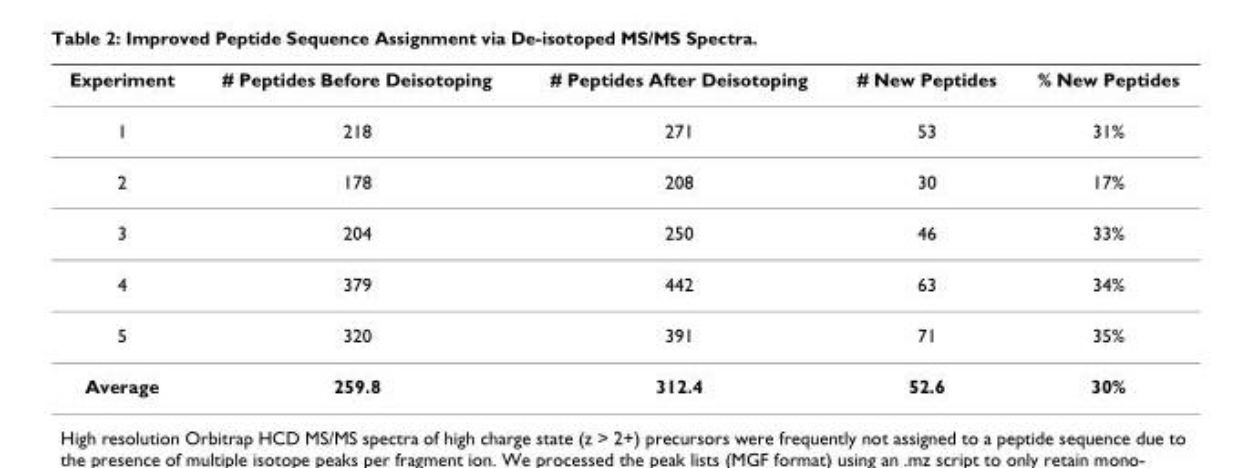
<table><thead><tr><td>Experiment</td><td># Peptides Before Deisotoping</td><td># Peptides After Deisotoping</td><td># New Peptides</td><td>% New Peptides</td></tr></thead><tbody><tr><td>1</td><td>218</td><td>271</td><td>53</td><td>31%</td></tr><tr><td>2</td><td>178</td><td>208</td><td>30</td><td>17%</td></tr><tr><td>3</td><td>204</td><td>250</td><td>46</td><td>33%</td></tr><tr><td>4</td><td>379</td><td>442</td><td>63</td><td>34%</td></tr><tr><td>5</td><td>320</td><td>391</td><td>71</td><td>35%</td></tr><tr><td>Average</td><td>259.8</td><td>312.4</td><td>52.6</td><td>30%</td></tr></tbody></table>